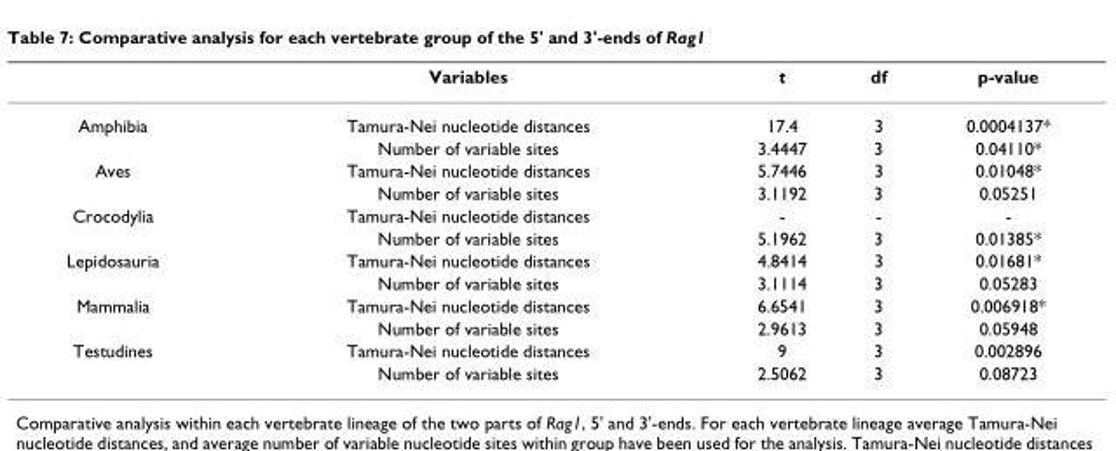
<table><thead><tr><td></td><td>Variables</td><td>t</td><td>df</td><td>p-value</td></tr></thead><tbody><tr><td rowspan="2">Amphibia</td><td>Tamura-Nei nucleotide distances</td><td>17.4</td><td>3</td><td>0.0004137*</td></tr><tr><td>Number of variable sites</td><td>3.4447</td><td>3</td><td>0.04110*</td></tr><tr><td rowspan="2">Aves</td><td>Tamura-Nei nucleotide distances</td><td>5.7446</td><td>3</td><td>0.01048*</td></tr><tr><td>Number of variable sites</td><td>3.1192</td><td>3</td><td>0.05251</td></tr><tr><td rowspan="2">Crocodylia</td><td>Tamura-Nei nucleotide distances</td><td>-</td><td>-</td><td>-</td></tr><tr><td>Number of variable sites</td><td>5.1962</td><td>3</td><td>0.01385*</td></tr><tr><td rowspan="2">Lepidosauria</td><td>Tamura-Nei nucleotide distances</td><td>4.8414</td><td>3</td><td>0.01681*</td></tr><tr><td>Number of variable sites</td><td>3.1114</td><td>3</td><td>0.05283</td></tr><tr><td rowspan="2">Mammalia</td><td>Tamura-Nei nucleotide distances</td><td>6.6541</td><td>3</td><td>0.006918*</td></tr><tr><td>Number of variable sites</td><td>2.9613</td><td>3</td><td>0.05948</td></tr><tr><td rowspan="2">Testudines</td><td>Tamura-Nei nucleotide distances</td><td>9</td><td>3</td><td>0.002896</td></tr><tr><td>Number of variable sites</td><td>2.5062</td><td>3</td><td>0.08723</td></tr></tbody></table>